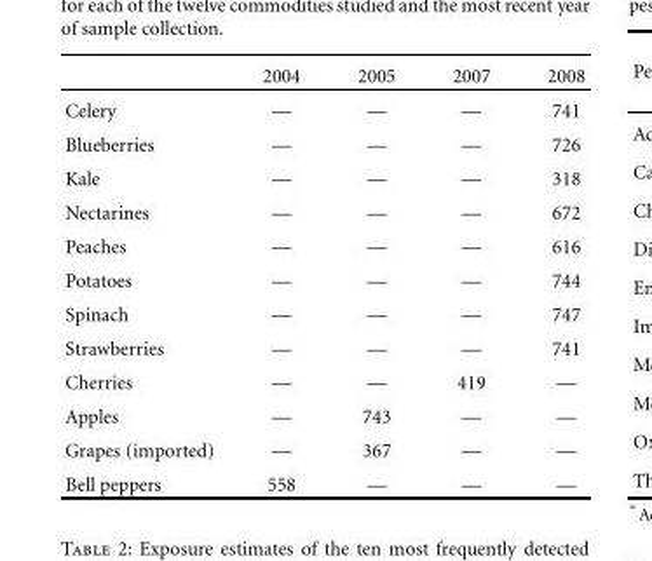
<table><thead><tr><td></td><td>2004</td><td>2005</td><td>2007</td><td>2008</td></tr></thead><tbody><tr><td>Celery</td><td>—</td><td>—</td><td>—</td><td>741</td></tr><tr><td>Blueberries</td><td>—</td><td>—</td><td>—</td><td>726</td></tr><tr><td>Kale</td><td>—</td><td>—</td><td>—</td><td>318</td></tr><tr><td>Nectarines</td><td>—</td><td>—</td><td>—</td><td>672</td></tr><tr><td>Peaches</td><td>—</td><td>—</td><td>—</td><td>616</td></tr><tr><td>Potatoes</td><td>—</td><td>—</td><td>—</td><td>744</td></tr><tr><td>Spinach</td><td>—</td><td>—</td><td>—</td><td>747</td></tr><tr><td>Strawberries</td><td>—</td><td>—</td><td>—</td><td>741</td></tr><tr><td>Cherries</td><td>—</td><td>—</td><td>419</td><td>—</td></tr><tr><td>Apples</td><td>—</td><td>743</td><td>—</td><td>—</td></tr><tr><td>Grapes (imported)</td><td>—</td><td>367</td><td>—</td><td>—</td></tr><tr><td>Bell peppers</td><td>558</td><td>—</td><td>—</td><td>—</td></tr></tbody></table>